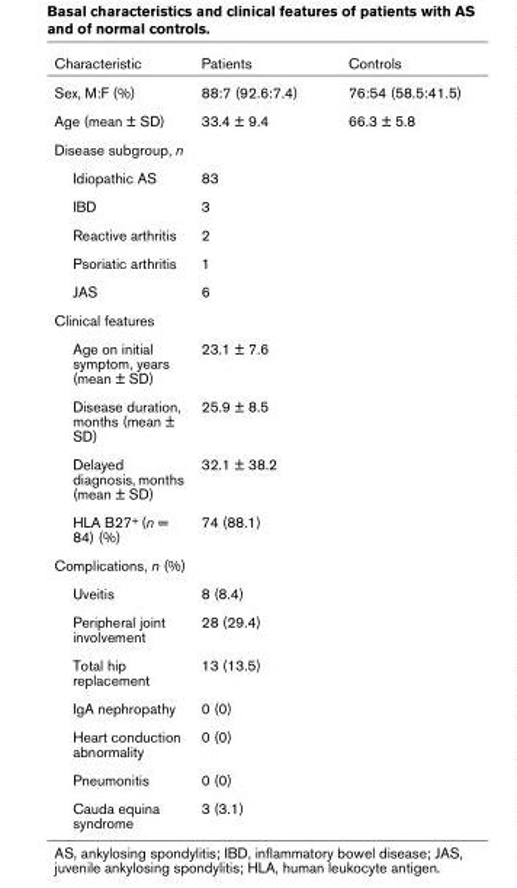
<table><thead><tr><td>Characteristic</td><td>Patients</td><td>Controls</td></tr></thead><tbody><tr><td>Sex, M:F (%)</td><td>88:7 (92.6:7.4)</td><td>76:54 (58.5:41.5)</td></tr><tr><td>Age (mean ± SD)</td><td>33.4 ± 9.4</td><td>66.3 ± 5.8</td></tr><tr><td colspan="3">Disease subgroup, n</td></tr><tr><td>Idiopathic AS</td><td>83</td><td></td></tr><tr><td>IBD</td><td>3</td><td></td></tr><tr><td>Reactive arthritis</td><td>2</td><td></td></tr><tr><td>Psoriatic arthritis</td><td>1</td><td></td></tr><tr><td>JAS</td><td>6</td><td></td></tr><tr><td colspan="3">Clinical features</td></tr><tr><td>Age on initial symptom, years (mean ± SD)</td><td>23.1 ± 7.6</td><td></td></tr><tr><td>Disease duration, months (mean ± SD)</td><td>25.9 ± 8.5</td><td></td></tr><tr><td>Delayed diagnosis, months (mean ± SD)</td><td>32.1 ± 38.2</td><td></td></tr><tr><td>HLA B27+ (n = 84) (%)</td><td>74 (88.1)</td><td></td></tr><tr><td colspan="3">Complications, n (%)</td></tr><tr><td>Uveitis</td><td>8 (8.4)</td><td></td></tr><tr><td>Peripheral joint involvement</td><td>28 (29.4)</td><td></td></tr><tr><td>Total hip replacement</td><td>13 (13.5)</td><td></td></tr><tr><td>IgA nephropathy</td><td>0 (0)</td><td></td></tr><tr><td>Heart conduction abnormality</td><td>0 (0)</td><td></td></tr><tr><td>Pneumonitis</td><td>0 (0)</td><td></td></tr><tr><td>Cauda equina syndrome</td><td>3 (3.1)</td><td></td></tr></tbody></table>